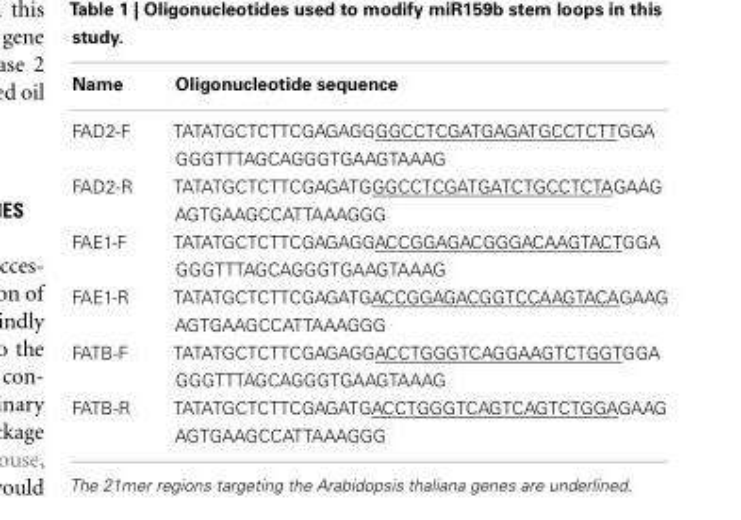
<table><thead><tr><td>Name</td><td>Oligonucleotide sequence</td></tr></thead><tbody><tr><td rowspan="2">FAD2-F</td><td>TATATGCTCTTCGAGAGGGGCCTCGATGAGATGCCTCTTGGA</td></tr><tr><td>GGGTTTAGCAGGGTGAAGTAAAG</td></tr><tr><td rowspan="2">FAD2-R</td><td>TATATGCTCTTCGAGATGGGCCTCGATGATCTGCCTCTAGAAG</td></tr><tr><td>AGTGAAGCCATTAAAGGG</td></tr><tr><td rowspan="2">FAE1-F</td><td>TATATGCTCTTCGAGAGGACCGGAGACGGGACAAGTACTGGA</td></tr><tr><td>GGGTTTAGCAGGGTGAAGTAAAG</td></tr><tr><td rowspan="2">FAE1-R</td><td>TATATGCTCTTCGAGATGACCGGAGACGGTCCAAGTACAGAAG</td></tr><tr><td>AGTGAAGCCATTAAAGGG</td></tr><tr><td rowspan="2">FATB-F</td><td>TATATGCTCTTCGAGAGGACCTGGGTCAGGAAGTCTGGTGGA</td></tr><tr><td>GGGTTTAGCAGGGTGAAGTAAAG</td></tr><tr><td rowspan="2">FATB-R</td><td>TATATGCTCTTCGAGATGACCTGGGTCAGTCAGTCTGGAGAAG</td></tr><tr><td>AGTGAAGCCATTAAAGGG</td></tr></tbody></table>